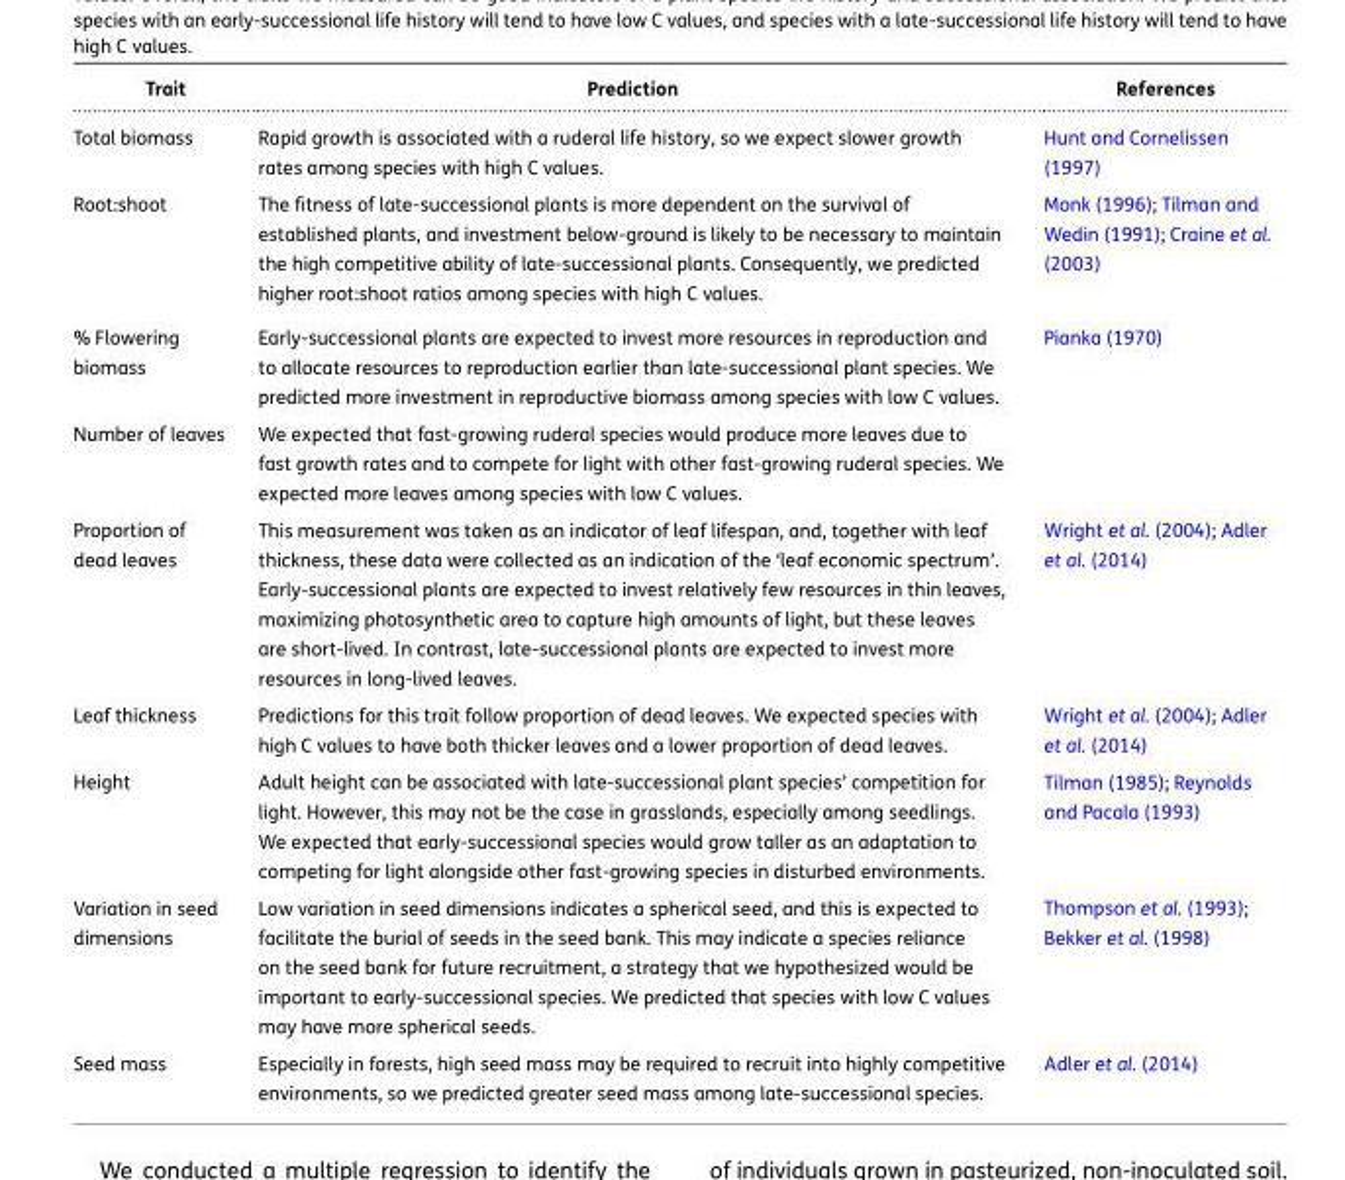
<table><thead><tr><td>Trait</td><td>Prediction</td><td>References</td></tr></thead><tbody><tr><td>Total biomass</td><td>Rapid growth is associated with a ruderal life history, so we expect slower growth rates among species with high C values.</td><td>Hunt and Cornelissen (1997)</td></tr><tr><td>Root:shoot</td><td>The fitness of late-successional plants is more dependent on the survival of established plants, and investment below-ground is likely to be necessary to maintain the high competitive ability of late-successional plants. Consequently, we predicted higher root:shoot ratios among species with high C values.</td><td>Monk (1996); Tilman and Wedin (1991); Craine et al. (2003)</td></tr><tr><td>% Flowering biomass</td><td>Early-successional plants are expected to invest more resources in reproduction and to allocate resources to reproduction earlier than late-successional plant species. We predicted more investment in reproductive biomass among species with low C values.</td><td>Pianka (1970)</td></tr><tr><td>Number of leaves</td><td>We expected that fast-growing ruderal species would produce more leaves due to fast growth rates and to compete for light with other fast-growing ruderal species. We expected more leaves among species with low C values.</td><td></td></tr><tr><td>Proportion of dead leaves</td><td>This measurement was taken as an indicator of leaf lifespan, and, together with leaf thickness, these data were collected as an indication of the ‘leaf economic spectrum’. Early-successional plants are expected to invest relatively few resources in thin leaves, maximizing photosynthetic area to capture high amounts of light, but these leaves are short-lived. In contrast, late-successional plants are expected to invest more resources in long-lived leaves.</td><td>Wright et al. (2004); Adler et al. (2014)</td></tr><tr><td>Leaf thickness</td><td>Predictions for this trait follow proportion of dead leaves. We expected species with high C values to have both thicker leaves and a lower proportion of dead leaves.</td><td>Wright et al. (2004); Adler et al. (2014)</td></tr><tr><td>Height</td><td>Adult height can be associated with late-successional plant species’ competition for light. However, this may not be the case in grasslands, especially among seedlings. We expected that early-successional species would grow taller as an adaptation to competing for light alongside other fast-growing species in disturbed environments.</td><td>Tilman (1985); Reynolds and Pacala (1993)</td></tr><tr><td>Variation in seed dimensions</td><td>Low variation in seed dimensions indicates a spherical seed, and this is expected to facilitate the burial of seeds in the seed bank. This may indicate a species reliance on the seed bank for future recruitment, a strategy that we hypothesized would be important to early-successional species. We predicted that species with low C values may have more spherical seeds.</td><td>Thompson et al. (1993); Bekker et al. (1998)</td></tr><tr><td>Seed mass</td><td>Especially in forests, high seed mass may be required to recruit into highly competitive environments, so we predicted greater seed mass among late-successional species.</td><td>Adler et al. (2014)</td></tr></tbody></table>